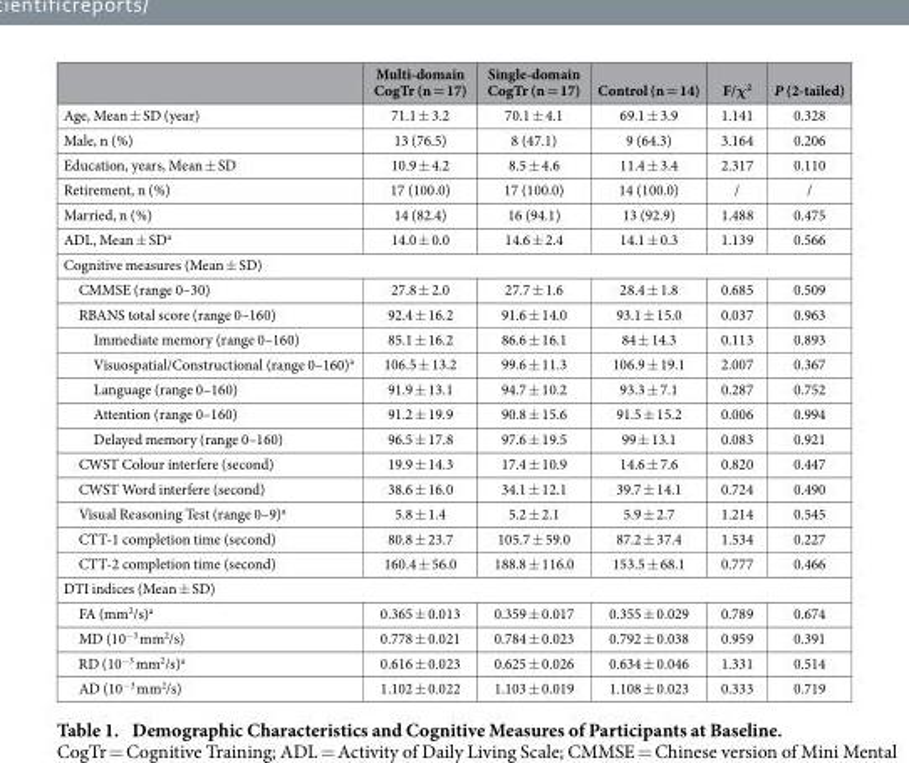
<table><thead><tr><td></td><td>Multi-domain CogTr (n = 17)</td><td>Single-domain CogTr (n = 17)</td><td>Control (n = 14)</td><td>F/χ<sup>2</sup></td><td>P (2-tailed)</td></tr></thead><tbody><tr><td>Age, Mean ± SD (year)</td><td>71.1 ± 3.2</td><td>70.1 ± 4.1</td><td>69.1 ± 3.9</td><td>1.141</td><td>0.328</td></tr><tr><td>Male, n (%)</td><td>13 (76.5)</td><td>8 (47.1)</td><td>9 (64.3)</td><td>3.164</td><td>0.206</td></tr><tr><td>Education, years, Mean ± SD</td><td>10.9 ± 4.2</td><td>8.5 ± 4.6</td><td>11.4 ± 3.4</td><td>2.317</td><td>0.110</td></tr><tr><td>Retirement, n (%)</td><td>17 (100.0)</td><td>17 (100.0)</td><td>14 (100.0)</td><td>/</td><td>/</td></tr><tr><td>Married, n (%)</td><td>14 (82.4)</td><td>16 (94.1)</td><td>13 (92.9)</td><td>1.488</td><td>0.475</td></tr><tr><td>ADL, Mean ± SD<sup>a</sup></td><td>14.0 ± 0.0</td><td>14.6 ± 2.4</td><td>14.1 ± 0.3</td><td>1.139</td><td>0.566</td></tr><tr><td colspan="6">Cognitive measures (Mean ± SD)</td></tr><tr><td>CMMSE (range 0–30)</td><td>27.8 ± 2.0</td><td>27.7 ± 1.6</td><td>28.4 ± 1.8</td><td>0.685</td><td>0.509</td></tr><tr><td>RBANS total score (range 0–160)</td><td>92.4 ± 16.2</td><td>91.6 ± 14.0</td><td>93.1 ± 15.0</td><td>0.037</td><td>0.963</td></tr><tr><td>Immediate memory (range 0–160)</td><td>85.1 ± 16.2</td><td>86.6 ± 16.1</td><td>84 ± 14.3</td><td>0.113</td><td>0.893</td></tr><tr><td>Visuospatial/Constructional (range 0–160)<sup>a</sup></td><td>106.5 ± 13.2</td><td>99.6 ± 11.3</td><td>106.9 ± 19.1</td><td>2.007</td><td>0.367</td></tr><tr><td>Language (range 0–160)</td><td>91.9 ± 13.1</td><td>94.7 ± 10.2</td><td>93.3 ± 7.1</td><td>0.287</td><td>0.752</td></tr><tr><td>Attention (range 0–160)</td><td>91.2 ± 19.9</td><td>90.8 ± 15.6</td><td>91.5 ± 15.2</td><td>0.006</td><td>0.994</td></tr><tr><td>Delayed memory (range 0–160)</td><td>96.5 ± 17.8</td><td>97.6 ± 19.5</td><td>99 ± 13.1</td><td>0.083</td><td>0.921</td></tr><tr><td>CWST Colour interfere (second)</td><td>19.9 ± 14.3</td><td>17.4 ± 10.9</td><td>14.6 ± 7.6</td><td>0.820</td><td>0.447</td></tr><tr><td>CWST Word interfere (second)</td><td>38.6 ± 16.0</td><td>34.1 ± 12.1</td><td>39.7 ± 14.1</td><td>0.724</td><td>0.490</td></tr><tr><td>Visual Reasoning Test (range 0–9)<sup>a</sup></td><td>5.8 ± 1.4</td><td>5.2 ± 2.1</td><td>5.9 ± 2.7</td><td>1.214</td><td>0.545</td></tr><tr><td>CTT-1 completion time (second)</td><td>80.8 ± 23.7</td><td>105.7 ± 59.0</td><td>87.2 ± 37.4</td><td>1.534</td><td>0.227</td></tr><tr><td>CTT-2 completion time (second)</td><td>160.4 ± 56.0</td><td>188.8 ± 116.0</td><td>153.5 ± 68.1</td><td>0.777</td><td>0.466</td></tr><tr><td colspan="6">DTI indices (Mean ± SD)</td></tr><tr><td>FA (mm<sup>2</sup>/s)<sup>a</sup></td><td>0.365 ± 0.013</td><td>0.359 ± 0.017</td><td>0.355 ± 0.029</td><td>0.789</td><td>0.674</td></tr><tr><td>MD (10<sup>−3</sup> mm<sup>2</sup>/s)</td><td>0.778 ± 0.021</td><td>0.784 ± 0.023</td><td>0.792 ± 0.038</td><td>0.959</td><td>0.391</td></tr><tr><td>RD (10<sup>−3</sup> mm<sup>2</sup>/s)<sup>a</sup></td><td>0.616 ± 0.023</td><td>0.625 ± 0.026</td><td>0.634 ± 0.046</td><td>1.331</td><td>0.514</td></tr><tr><td>AD (10<sup>−3</sup> mm<sup>2</sup>/s)</td><td>1.102 ± 0.022</td><td>1.103 ± 0.019</td><td>1.108 ± 0.023</td><td>0.333</td><td>0.719</td></tr></tbody></table>